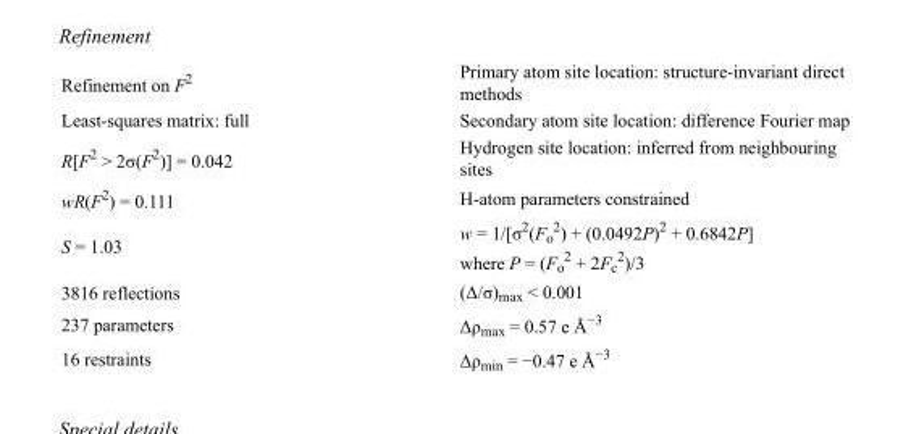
<table><tbody><tr><td>Refinement on F<sup>2</sup></td><td>Primary atom site location: structure-invariant direct methods</td></tr><tr><td>Least-squares matrix: full</td><td>Secondary atom site location: difference Fourier map</td></tr><tr><td>R[F<sup>2</sup> &gt; 2σ(F<sup>2</sup>)] = 0.042</td><td>Hydrogen site location: inferred from neighbouring sites</td></tr><tr><td>wR(F<sup>2</sup>) = 0.111</td><td>H-atom parameters constrained</td></tr><tr><td>S = 1.03</td><td>w = 1/[σ<sup>2</sup>(F<sub>o</sub> <sup>2</sup>) + (0.0492P)<sup>2</sup> + 0.6842P] where P = (F<sub>o</sub> <sup>2</sup> + 2F<sub>c</sub> <sup>2</sup>)/3</td></tr><tr><td>3816 reflections</td><td>(Δ/σ)<sub>max</sub> &lt; 0.001</td></tr><tr><td>237 parameters</td><td>Δρ<sub>max</sub> = 0.57 e Å<sup>−3</sup></td></tr><tr><td>16 restraints</td><td>Δρ<sub>min</sub> = −0.47 e Å<sup>−3</sup></td></tr></tbody></table>